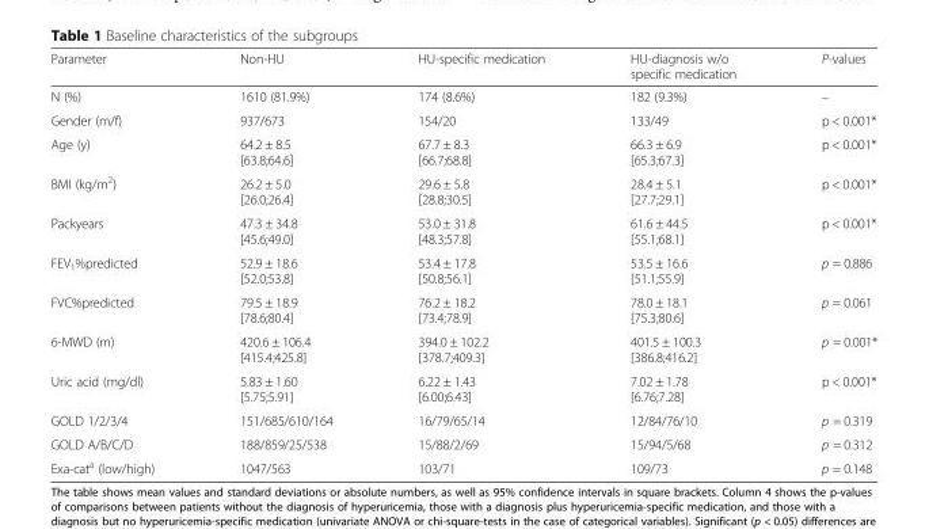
<table><thead><tr><td>Parameter</td><td>Non-HU</td><td>HU-specific medication</td><td>HU-diagnosis w/o specific medication</td><td>P-values</td></tr></thead><tbody><tr><td>N (%)</td><td>1610 (81.9%)</td><td>174 (8.6%)</td><td>182 (9.3%)</td><td>–</td></tr><tr><td>Gender (m/f)</td><td>937/673</td><td>154/20</td><td>133/49</td><td>p &lt; 0.001*</td></tr><tr><td>Age (y)</td><td>64.2 ± 8.5 [63.8;64.6]</td><td>67.7 ± 8.3 [66.7;68.8]</td><td>66.3 ± 6.9 [65.3;67.3]</td><td>p &lt; 0.001*</td></tr><tr><td>BMI (kg/m<sup>2</sup>)</td><td>26.2 ± 5.0 [26.0;26.4]</td><td>29.6 ± 5.8 [28.8;30.5]</td><td>28.4 ± 5.1 [27.7;29.1]</td><td>p &lt; 0.001*</td></tr><tr><td>Packyears</td><td>47.3 ± 34.8 [45.6;49.0]</td><td>53.0 ± 31.8 [48.3;57.8]</td><td>61.6 ± 44.5 [55.1;68.1]</td><td>p &lt; 0.001*</td></tr><tr><td>FEV<sub>1</sub>%predicted</td><td>52.9 ± 18.6 [52.0;53.8]</td><td>53.4 ± 17.8 [50.8;56.1]</td><td>53.5 ± 16.6 [51.1;55.9]</td><td>p = 0.886</td></tr><tr><td>FVC%predicted</td><td>79.5 ± 18.9 [78.6;80.4]</td><td>76.2 ± 18.2 [73.4;78.9]</td><td>78.0 ± 18.1 [75.3;80.6]</td><td>p = 0.061</td></tr><tr><td>6-MWD (m)</td><td>420.6 ± 106.4 [415.4;425.8]</td><td>394.0 ± 102.2 [378.7;409.3]</td><td>401.5 ± 100.3 [386.8;416.2]</td><td>p = 0.001*</td></tr><tr><td>Uric acid (mg/dl)</td><td>5.83 ± 1.60 [5.75;5.91]</td><td>6.22 ± 1.43 [6.00;6.43]</td><td>7.02 ± 1.78 [6.76;7.28]</td><td>p &lt; 0.001*</td></tr><tr><td>GOLD 1/2/3/4</td><td>151/685/610/164</td><td>16/79/65/14</td><td>12/84/76/10</td><td>p = 0.319</td></tr><tr><td>GOLD A/B/C/D</td><td>188/859/25/538</td><td>15/88/2/69</td><td>15/94/5/68</td><td>p = 0.312</td></tr><tr><td>Exa-cat<sup>a</sup> (low/high)</td><td>1047/563</td><td>103/71</td><td>109/73</td><td>p = 0.148</td></tr></tbody></table>